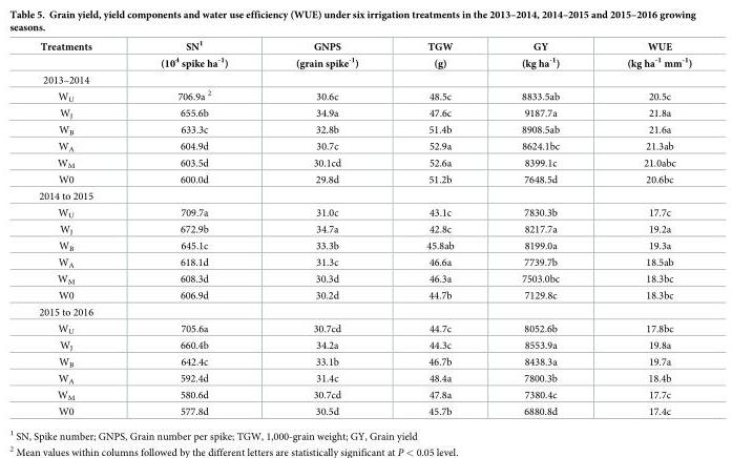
<table><thead><tr><td rowspan="2">Treatments</td><td rowspan="2">SN<sup>1</sup> (10<sup>4</sup> spike ha<sup>-1</sup>)</td><td rowspan="2">GNPS (grain spike<sup>-1</sup>)</td><td rowspan="2">TGW (g)</td><td rowspan="2">GY (kg ha<sup>-1</sup>)</td><td rowspan="2">WUE (kg ha<sup>-1</sup> mm<sup>-1</sup>)</td></tr><tr></tr></thead><tbody><tr><td colspan="6">2013–2014</td></tr><tr><td>W<sub>U</sub></td><td>706.9a <sup>2</sup></td><td>30.6c</td><td>48.5c</td><td>8833.5ab</td><td>20.5c</td></tr><tr><td>W<sub>J</sub></td><td>655.6b</td><td>34.9a</td><td>47.6c</td><td>9187.7a</td><td>21.8a</td></tr><tr><td>W<sub>B</sub></td><td>633.3c</td><td>32.8b</td><td>51.4b</td><td>8908.5ab</td><td>21.6a</td></tr><tr><td>W<sub>A</sub></td><td>604.9d</td><td>30.7c</td><td>52.9a</td><td>8624.1bc</td><td>21.3ab</td></tr><tr><td>W<sub>M</sub></td><td>603.5d</td><td>30.1cd</td><td>52.6a</td><td>8399.1c</td><td>21.0abc</td></tr><tr><td>W0</td><td>600.0d</td><td>29.8d</td><td>51.2b</td><td>7648.5d</td><td>20.6bc</td></tr><tr><td colspan="6">2014 to 2015</td></tr><tr><td>W<sub>U</sub></td><td>709.7a</td><td>31.0c</td><td>43.1c</td><td>7830.3b</td><td>17.7c</td></tr><tr><td>W<sub>J</sub></td><td>672.9b</td><td>34.7a</td><td>42.8c</td><td>8217.7a</td><td>19.2a</td></tr><tr><td>W<sub>B</sub></td><td>645.1c</td><td>33.3b</td><td>45.8ab</td><td>8199.0a</td><td>19.3a</td></tr><tr><td>W<sub>A</sub></td><td>618.1d</td><td>31.3c</td><td>46.6a</td><td>7739.7b</td><td>18.5ab</td></tr><tr><td>W<sub>M</sub></td><td>608.3d</td><td>30.3d</td><td>46.3a</td><td>7503.0bc</td><td>18.3bc</td></tr><tr><td>W0</td><td>606.9d</td><td>30.2d</td><td>44.7b</td><td>7129.8c</td><td>18.3bc</td></tr><tr><td colspan="6">2015 to 2016</td></tr><tr><td>W<sub>U</sub></td><td>705.6a</td><td>30.7cd</td><td>44.7c</td><td>8052.6b</td><td>17.8bc</td></tr><tr><td>W<sub>J</sub></td><td>660.4b</td><td>34.2a</td><td>44.3c</td><td>8553.9a</td><td>19.8a</td></tr><tr><td>W<sub>B</sub></td><td>642.4c</td><td>33.1b</td><td>46.7b</td><td>8438.3a</td><td>19.7a</td></tr><tr><td>W<sub>A</sub></td><td>592.4d</td><td>31.4c</td><td>48.4a</td><td>7800.3b</td><td>18.4b</td></tr><tr><td>W<sub>M</sub></td><td>580.6d</td><td>30.7cd</td><td>47.8a</td><td>7380.4c</td><td>17.7c</td></tr><tr><td>W0</td><td>577.8d</td><td>30.5d</td><td>45.7b</td><td>6880.8d</td><td>17.4c</td></tr></tbody></table>